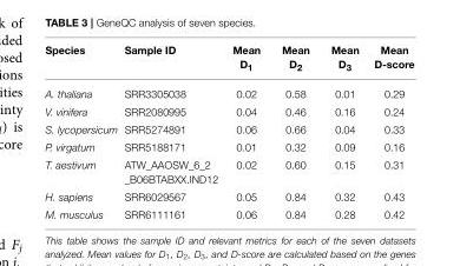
<table><thead><tr><td>Species</td><td>Sample ID</td><td>Mean D<sub>1</sub></td><td>Mean D<sub>2</sub></td><td>Mean D<sub>3</sub></td><td>Mean D-score</td></tr></thead><tbody><tr><td>A. thaliana</td><td>SRR3305038</td><td>0.02</td><td>0.58</td><td>0.01</td><td>0.29</td></tr><tr><td>V. vinifera</td><td>SRR2080995</td><td>0.04</td><td>0.46</td><td>0.16</td><td>0.24</td></tr><tr><td>S. lycopersicum</td><td>SRR5274891</td><td>0.06</td><td>0.66</td><td>0.04</td><td>0.33</td></tr><tr><td>P. virgatum</td><td>SRR5188171</td><td>0.01</td><td>0.32</td><td>0.09</td><td>0.16</td></tr><tr><td>T. aestivum</td><td>ATW_AAOSW_6_2 _B06BTABXX.IND12</td><td>0.02</td><td>0.60</td><td>0.15</td><td>0.31</td></tr><tr><td>H. sapiens</td><td>SRR6029567</td><td>0.05</td><td>0.84</td><td>0.32</td><td>0.43</td></tr><tr><td>M. musculus</td><td>SRR6111161</td><td>0.06</td><td>0.84</td><td>0.28</td><td>0.42</td></tr></tbody></table>